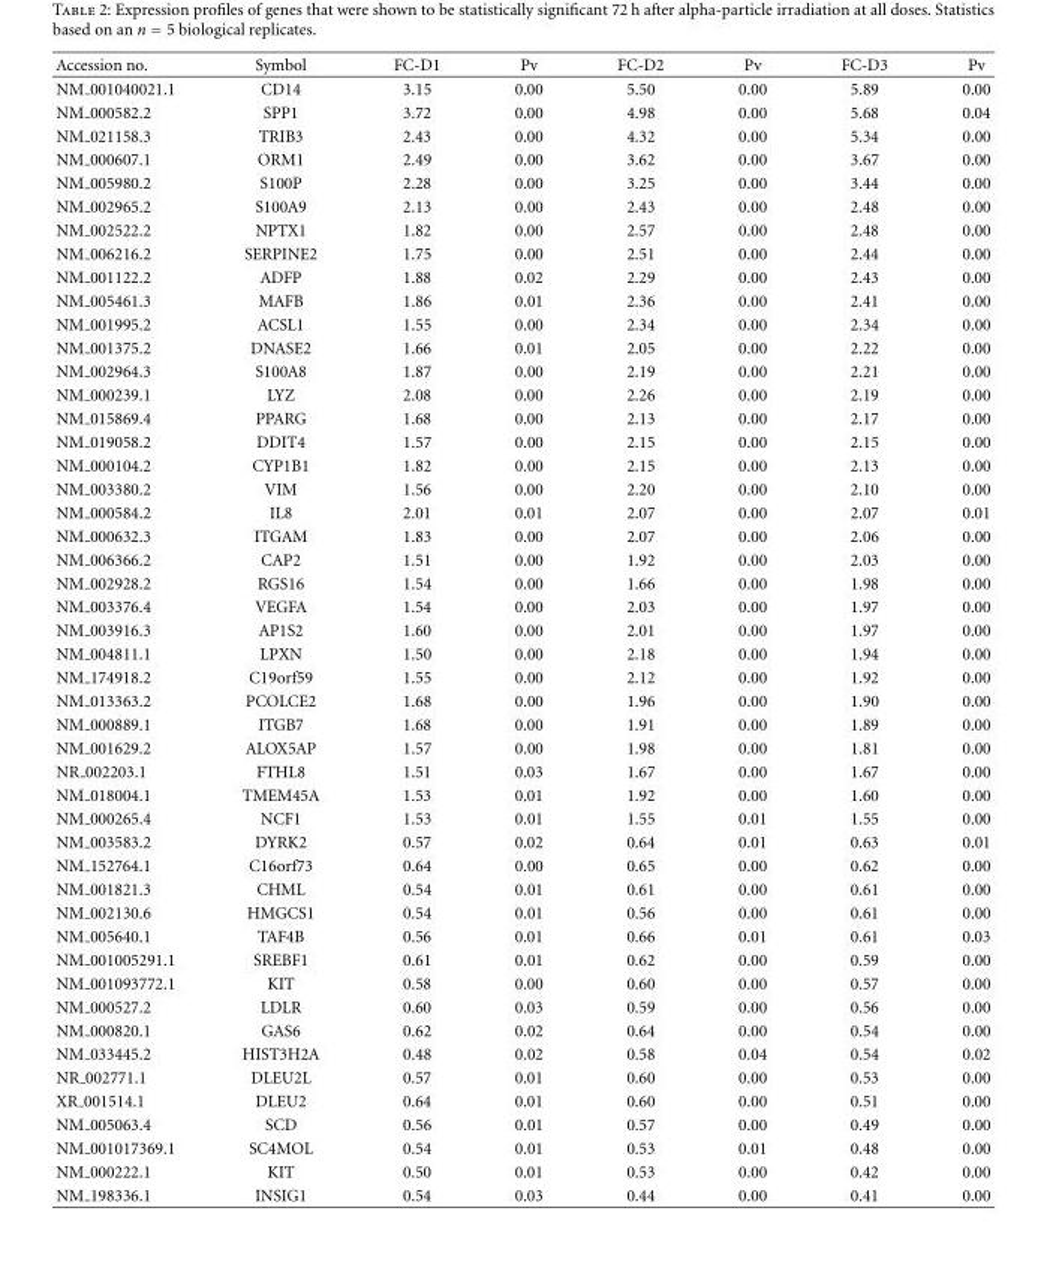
<table><thead><tr><td>Accession no.</td><td>Symbol</td><td>FC-D1</td><td>Pv</td><td>FC-D2</td><td>Pv</td><td>FC-D3</td><td>Pv</td></tr></thead><tbody><tr><td>NM 001040021.1</td><td>CD14</td><td>3.15</td><td>0.00</td><td>5.50</td><td>0.00</td><td>5.89</td><td>0.00</td></tr><tr><td>NM 000582.2</td><td>SPP1</td><td>3.72</td><td>0.00</td><td>4.98</td><td>0.00</td><td>5.68</td><td>0.04</td></tr><tr><td>NM 021158.3</td><td>TRIB3</td><td>2.43</td><td>0.00</td><td>4.32</td><td>0.00</td><td>5.34</td><td>0.00</td></tr><tr><td>NM 000607.1</td><td>ORM1</td><td>2.49</td><td>0.00</td><td>3.62</td><td>0.00</td><td>3.67</td><td>0.00</td></tr><tr><td>NM 005980.2</td><td>S100P</td><td>2.28</td><td>0.00</td><td>3.25</td><td>0.00</td><td>3.44</td><td>0.00</td></tr><tr><td>NM 002965.2</td><td>S100A9</td><td>2.13</td><td>0.00</td><td>2.43</td><td>0.00</td><td>2.48</td><td>0.00</td></tr><tr><td>NM 002522.2</td><td>NPTX1</td><td>1.82</td><td>0.00</td><td>2.57</td><td>0.00</td><td>2.48</td><td>0.00</td></tr><tr><td>NM 006216.2</td><td>SERPINE2</td><td>1.75</td><td>0.00</td><td>2.51</td><td>0.00</td><td>2.44</td><td>0.00</td></tr><tr><td>NM 001122.2</td><td>ADFP</td><td>1.88</td><td>0.02</td><td>2.29</td><td>0.00</td><td>2.43</td><td>0.00</td></tr><tr><td>NM 005461.3</td><td>MAFB</td><td>1.86</td><td>0.01</td><td>2.36</td><td>0.00</td><td>2.41</td><td>0.00</td></tr><tr><td>NM 001995.2</td><td>ACSL1</td><td>1.55</td><td>0.00</td><td>2.34</td><td>0.00</td><td>2.34</td><td>0.00</td></tr><tr><td>NM 001375.2</td><td>DNASE2</td><td>1.66</td><td>0.01</td><td>2.05</td><td>0.00</td><td>2.22</td><td>0.00</td></tr><tr><td>NM 002964.3</td><td>S100A8</td><td>1.87</td><td>0.00</td><td>2.19</td><td>0.00</td><td>2.21</td><td>0.00</td></tr><tr><td>NM 000239.1</td><td>LYZ</td><td>2.08</td><td>0.00</td><td>2.26</td><td>0.00</td><td>2.19</td><td>0.00</td></tr><tr><td>NM 015869.4</td><td>PPARG</td><td>1.68</td><td>0.00</td><td>2.13</td><td>0.00</td><td>2.17</td><td>0.00</td></tr><tr><td>NM 019058.2</td><td>DDIT4</td><td>1.57</td><td>0.00</td><td>2.15</td><td>0.00</td><td>2.15</td><td>0.00</td></tr><tr><td>NM 000104.2</td><td>CYP1B1</td><td>1.82</td><td>0.00</td><td>2.15</td><td>0.00</td><td>2.13</td><td>0.00</td></tr><tr><td>NM 003380.2</td><td>VIM</td><td>1.56</td><td>0.00</td><td>2.20</td><td>0.00</td><td>2.10</td><td>0.00</td></tr><tr><td>NM 000584.2</td><td>IL8</td><td>2.01</td><td>0.01</td><td>2.07</td><td>0.00</td><td>2.07</td><td>0.01</td></tr><tr><td>NM 000632.3</td><td>ITGAM</td><td>1.83</td><td>0.00</td><td>2.07</td><td>0.00</td><td>2.06</td><td>0.00</td></tr><tr><td>NM 006366.2</td><td>CAP2</td><td>1.51</td><td>0.00</td><td>1.92</td><td>0.00</td><td>2.03</td><td>0.00</td></tr><tr><td>NM 002928.2</td><td>RGS16</td><td>1.54</td><td>0.00</td><td>1.66</td><td>0.00</td><td>1.98</td><td>0.00</td></tr><tr><td>NM 003376.4</td><td>VEGFA</td><td>1.54</td><td>0.00</td><td>2.03</td><td>0.00</td><td>1.97</td><td>0.00</td></tr><tr><td>NM 003916.3</td><td>AP1S2</td><td>1.60</td><td>0.00</td><td>2.01</td><td>0.00</td><td>1.97</td><td>0.00</td></tr><tr><td>NM 004811.1</td><td>LPXN</td><td>1.50</td><td>0.00</td><td>2.18</td><td>0.00</td><td>1.94</td><td>0.00</td></tr><tr><td>NM 174918.2</td><td>C19orf59</td><td>1.55</td><td>0.00</td><td>2.12</td><td>0.00</td><td>1.92</td><td>0.00</td></tr><tr><td>NM 013363.2</td><td>PCOLCE2</td><td>1.68</td><td>0.00</td><td>1.96</td><td>0.00</td><td>1.90</td><td>0.00</td></tr><tr><td>NM 000889.1</td><td>ITGB7</td><td>1.68</td><td>0.00</td><td>1.91</td><td>0.00</td><td>1.89</td><td>0.00</td></tr><tr><td>NM 001629.2</td><td>ALOX5AP</td><td>1.57</td><td>0.00</td><td>1.98</td><td>0.00</td><td>1.81</td><td>0.00</td></tr><tr><td>NR 002203.1</td><td>FTHL8</td><td>1.51</td><td>0.03</td><td>1.67</td><td>0.00</td><td>1.67</td><td>0.00</td></tr><tr><td>NM 018004.1</td><td>TMEM45A</td><td>1.53</td><td>0.01</td><td>1.92</td><td>0.00</td><td>1.60</td><td>0.00</td></tr><tr><td>NM 000265.4</td><td>NCF1</td><td>1.53</td><td>0.01</td><td>1.55</td><td>0.01</td><td>1.55</td><td>0.00</td></tr><tr><td>NM 003583.2</td><td>DYRK2</td><td>0.57</td><td>0.02</td><td>0.64</td><td>0.01</td><td>0.63</td><td>0.01</td></tr><tr><td>NM 152764.1</td><td>C16orf73</td><td>0.64</td><td>0.00</td><td>0.65</td><td>0.00</td><td>0.62</td><td>0.00</td></tr><tr><td>NM 001821.3</td><td>CHML</td><td>0.54</td><td>0.01</td><td>0.61</td><td>0.00</td><td>0.61</td><td>0.00</td></tr><tr><td>NM 002130.6</td><td>HMGCS1</td><td>0.54</td><td>0.01</td><td>0.56</td><td>0.00</td><td>0.61</td><td>0.00</td></tr><tr><td>NM 005640.1</td><td>TAF4B</td><td>0.56</td><td>0.01</td><td>0.66</td><td>0.01</td><td>0.61</td><td>0.03</td></tr><tr><td>NM 001005291.1</td><td>SREBF1</td><td>0.61</td><td>0.01</td><td>0.62</td><td>0.00</td><td>0.59</td><td>0.00</td></tr><tr><td>NM 001093772.1</td><td>KIT</td><td>0.58</td><td>0.00</td><td>0.60</td><td>0.00</td><td>0.57</td><td>0.00</td></tr><tr><td>NM 000527.2</td><td>LDLR</td><td>0.60</td><td>0.03</td><td>0.59</td><td>0.00</td><td>0.56</td><td>0.00</td></tr><tr><td>NM 000820.1</td><td>GAS6</td><td>0.62</td><td>0.02</td><td>0.64</td><td>0.00</td><td>0.54</td><td>0.00</td></tr><tr><td>NM 033445.2</td><td>HIST3H2A</td><td>0.48</td><td>0.02</td><td>0.58</td><td>0.04</td><td>0.54</td><td>0.02</td></tr><tr><td>NR 002771.1</td><td>DLEU2L</td><td>0.57</td><td>0.01</td><td>0.60</td><td>0.00</td><td>0.53</td><td>0.00</td></tr><tr><td>XR 001514.1</td><td>DLEU2</td><td>0.64</td><td>0.01</td><td>0.60</td><td>0.00</td><td>0.51</td><td>0.00</td></tr><tr><td>NM 005063.4</td><td>SCD</td><td>0.56</td><td>0.01</td><td>0.57</td><td>0.00</td><td>0.49</td><td>0.00</td></tr><tr><td>NM 001017369.1</td><td>SC4MOL</td><td>0.54</td><td>0.01</td><td>0.53</td><td>0.01</td><td>0.48</td><td>0.00</td></tr><tr><td>NM 000222.1</td><td>KIT</td><td>0.50</td><td>0.01</td><td>0.53</td><td>0.00</td><td>0.42</td><td>0.00</td></tr><tr><td>NM 198336.1</td><td>INSIG1</td><td>0.54</td><td>0.03</td><td>0.44</td><td>0.00</td><td>0.41</td><td>0.00</td></tr></tbody></table>